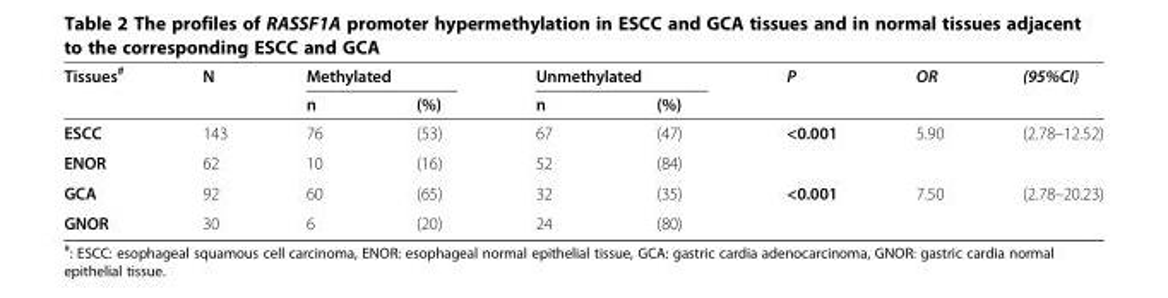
<table><thead><tr><td rowspan="2">Tissues<sup>#</sup></td><td rowspan="2">N</td><td colspan="2">Methylated</td><td colspan="2">Unmethylated</td><td rowspan="2">P</td><td rowspan="2">OR</td><td rowspan="2">(95%CI)</td></tr><tr><td>n</td><td>(%)</td><td>n</td><td>(%)</td></tr></thead><tbody><tr><td>ESCC</td><td>143</td><td>76</td><td>(53)</td><td>67</td><td>(47)</td><td rowspan="2">&lt;0.001</td><td rowspan="2">5.90</td><td rowspan="2">(2.78–12.52)</td></tr><tr><td>ENOR</td><td>62</td><td>10</td><td>(16)</td><td>52</td><td>(84)</td></tr><tr><td>GCA</td><td>92</td><td>60</td><td>(65)</td><td>32</td><td>(35)</td><td>&lt;0.001</td><td>7.50</td><td>(2.78–20.23)</td></tr><tr><td>GNOR</td><td>30</td><td>6</td><td>(20)</td><td>24</td><td>(80)</td><td></td><td></td><td></td></tr></tbody></table>